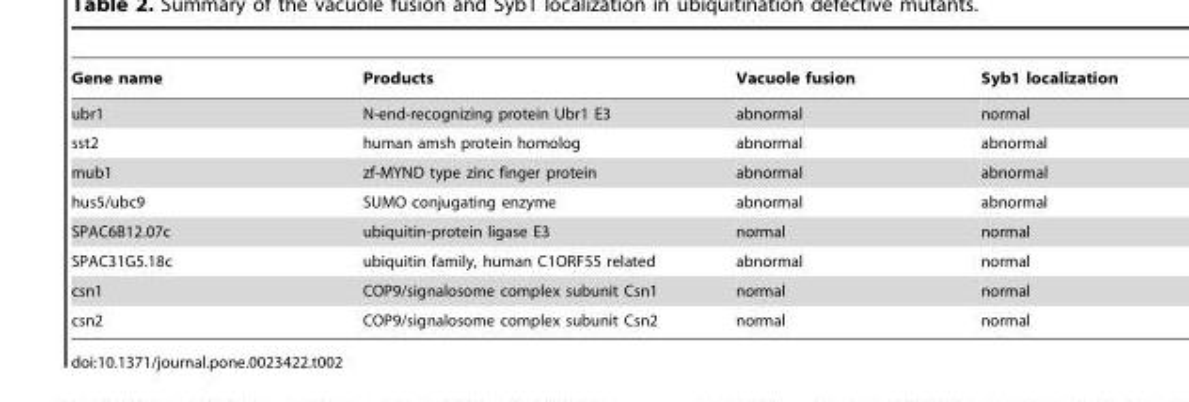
<table><thead><tr><td>Gene name</td><td>Products</td><td>Vacuole fusion</td><td>Syb1 localization</td></tr></thead><tbody><tr><td>ubr1</td><td>N-end-recognizing protein Ubr1 E3</td><td>abnormal</td><td>normal</td></tr><tr><td>sst2</td><td>human amsh protein homolog</td><td>abnormal</td><td>abnormal</td></tr><tr><td>mub1</td><td>zf-MYND type zinc finger protein</td><td>abnormal</td><td>abnormal</td></tr><tr><td>hus5/ubc9</td><td>SUMO conjugating enzyme</td><td>abnormal</td><td>abnormal</td></tr><tr><td>SPAC6B12.07c</td><td>ubiquitin-protein ligase E3</td><td>normal</td><td>normal</td></tr><tr><td>SPAC31G5.18c</td><td>ubiquitin family, human C1ORF55 related</td><td>abnormal</td><td>normal</td></tr><tr><td>csn1</td><td>COP9/signalosome complex subunit Csn1</td><td>normal</td><td>normal</td></tr><tr><td>csn2</td><td>COP9/signalosome complex subunit Csn2</td><td>normal</td><td>normal</td></tr></tbody></table>